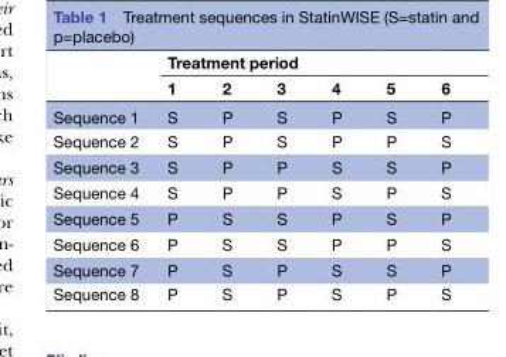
<table><thead><tr><td rowspan="2"></td><td colspan="6">Treatment period</td></tr><tr><td>1</td><td>2</td><td>3</td><td>4</td><td>5</td><td>6</td></tr></thead><tbody><tr><td>Sequence 1</td><td>S</td><td>P</td><td>S</td><td>P</td><td>S</td><td>P</td></tr><tr><td>Sequence 2</td><td>S</td><td>P</td><td>S</td><td>P</td><td>P</td><td>S</td></tr><tr><td>Sequence 3</td><td>S</td><td>P</td><td>P</td><td>S</td><td>S</td><td>P</td></tr><tr><td>Sequence 4</td><td>S</td><td>P</td><td>P</td><td>S</td><td>P</td><td>S</td></tr><tr><td>Sequence 5</td><td>P</td><td>S</td><td>S</td><td>P</td><td>S</td><td>P</td></tr><tr><td>Sequence 6</td><td>P</td><td>S</td><td>S</td><td>P</td><td>P</td><td>S</td></tr><tr><td>Sequence 7</td><td>P</td><td>S</td><td>P</td><td>S</td><td>S</td><td>P</td></tr><tr><td>Sequence 8</td><td>P</td><td>S</td><td>P</td><td>S</td><td>P</td><td>S</td></tr></tbody></table>